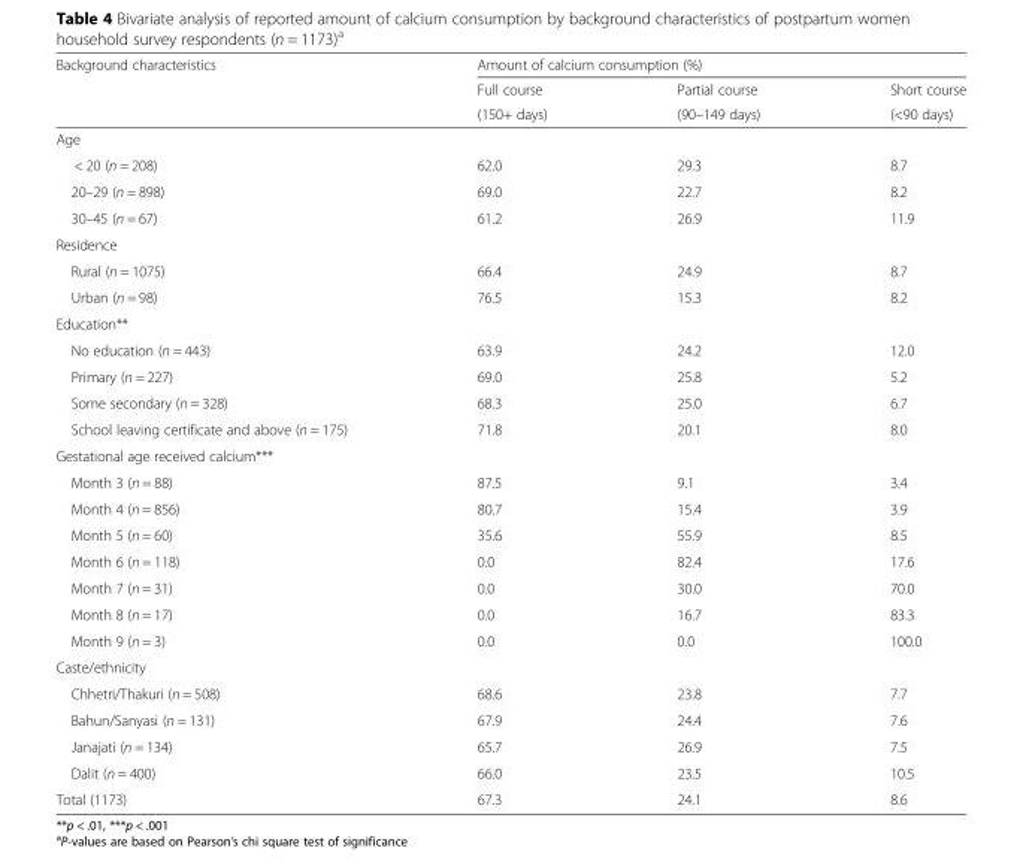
<table><thead><tr><td rowspan="3">Background characteristics</td><td colspan="3">Amount of calcium consumption (%)</td></tr><tr><td rowspan="2">Full course (150+ days)</td><td rowspan="2">Partial course (90–149 days)</td><td rowspan="2">Short course (&lt;90 days)</td></tr><tr></tr></thead><tbody><tr><td colspan="4">Age</td></tr><tr><td>&lt; 20 (n = 208)</td><td>62.0</td><td>29.3</td><td>8.7</td></tr><tr><td>20–29 (n = 898)</td><td>69.0</td><td>22.7</td><td>8.2</td></tr><tr><td>30–45 (n = 67)</td><td>61.2</td><td>26.9</td><td>11.9</td></tr><tr><td colspan="4">Residence</td></tr><tr><td>Rural (n = 1075)</td><td>66.4</td><td>24.9</td><td>8.7</td></tr><tr><td>Urban (n = 98)</td><td>76.5</td><td>15.3</td><td>8.2</td></tr><tr><td colspan="4">Education**</td></tr><tr><td>No education (n = 443)</td><td>63.9</td><td>24.2</td><td>12.0</td></tr><tr><td>Primary (n = 227)</td><td>69.0</td><td>25.8</td><td>5.2</td></tr><tr><td>Some secondary (n = 328)</td><td>68.3</td><td>25.0</td><td>6.7</td></tr><tr><td>School leaving certificate and above (n = 175)</td><td>71.8</td><td>20.1</td><td>8.0</td></tr><tr><td colspan="4">Gestational age received calcium***</td></tr><tr><td>Month 3 (n = 88)</td><td>87.5</td><td>9.1</td><td>3.4</td></tr><tr><td>Month 4 (n = 856)</td><td>80.7</td><td>15.4</td><td>3.9</td></tr><tr><td>Month 5 (n = 60)</td><td>35.6</td><td>55.9</td><td>8.5</td></tr><tr><td>Month 6 (n = 118)</td><td>0.0</td><td>82.4</td><td>17.6</td></tr><tr><td>Month 7 (n = 31)</td><td>0.0</td><td>30.0</td><td>70.0</td></tr><tr><td>Month 8 (n = 17)</td><td>0.0</td><td>16.7</td><td>83.3</td></tr><tr><td>Month 9 (n = 3)</td><td>0.0</td><td>0.0</td><td>100.0</td></tr><tr><td colspan="4">Caste/ethnicity</td></tr><tr><td>Chhetri/Thakuri (n = 508)</td><td>68.6</td><td>23.8</td><td>7.7</td></tr><tr><td>Bahun/Sanyasi (n = 131)</td><td>67.9</td><td>24.4</td><td>7.6</td></tr><tr><td>Janajati (n = 134)</td><td>65.7</td><td>26.9</td><td>7.5</td></tr><tr><td>Dalit (n = 400)</td><td>66.0</td><td>23.5</td><td>10.5</td></tr><tr><td>Total (1173)</td><td>67.3</td><td>24.1</td><td>8.6</td></tr></tbody></table>